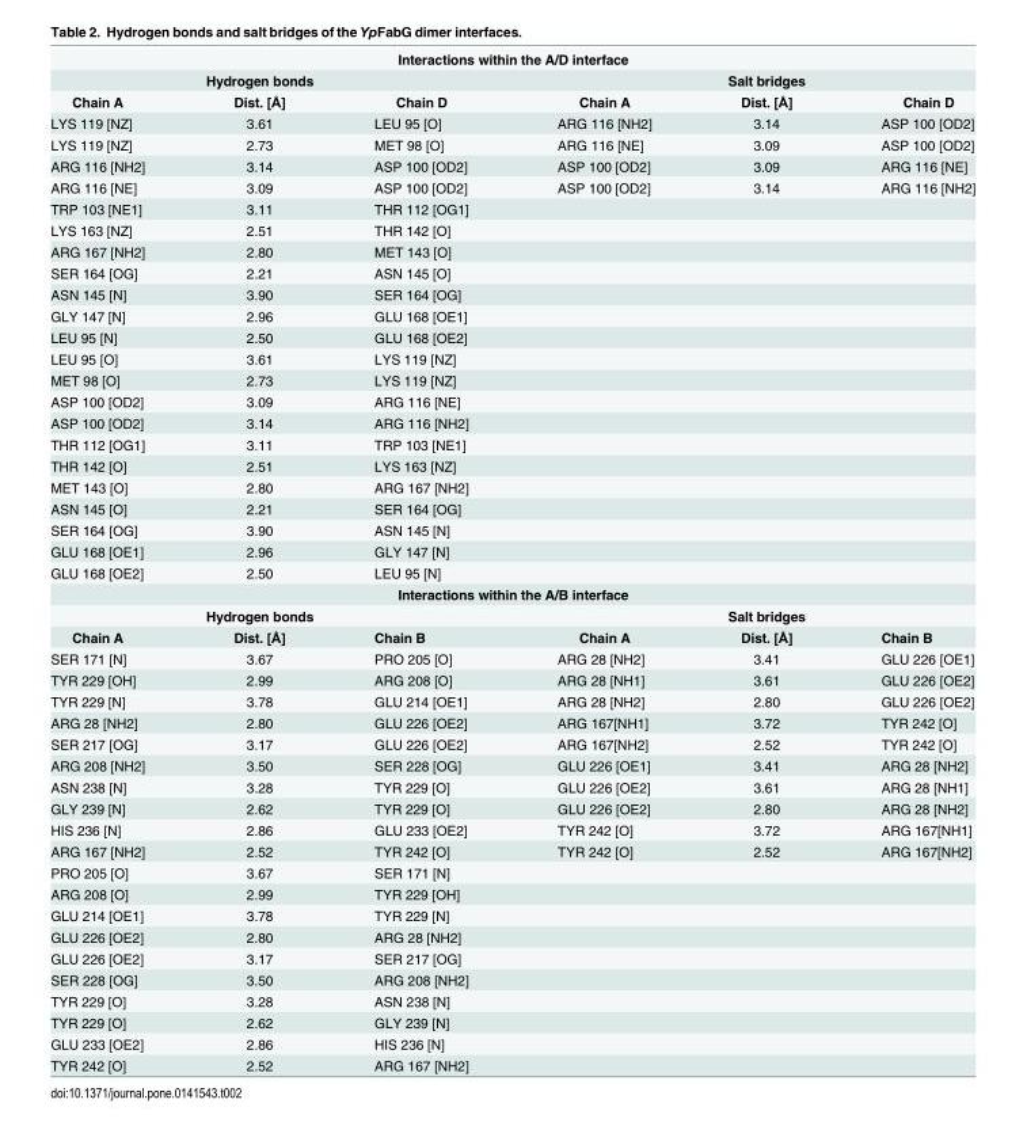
<table><tbody><tr><td colspan="6">Interactions within the A/D interface</td></tr><tr><td colspan="3">Hydrogen bonds</td><td colspan="3">Salt bridges</td></tr><tr><td>Chain A</td><td>Dist. [Å]</td><td>Chain D</td><td>Chain A</td><td>Dist. [Å]</td><td>Chain D</td></tr><tr><td>LYS 119 [NZ]</td><td>3.61</td><td>LEU 95 [O]</td><td>ARG 116 [NH2]</td><td>3.14</td><td>ASP 100 [OD2]</td></tr><tr><td>LYS 119 [NZ]</td><td>2.73</td><td>MET 98 [O]</td><td>ARG 116 [NE]</td><td>3.09</td><td>ASP 100 [OD2]</td></tr><tr><td>ARG 116 [NH2]</td><td>3.14</td><td>ASP 100 [OD2]</td><td>ASP 100 [OD2]</td><td>3.09</td><td>ARG 116 [NE]</td></tr><tr><td>ARG 116 [NE]</td><td>3.09</td><td>ASP 100 [OD2]</td><td>ASP 100 [OD2]</td><td>3.14</td><td>ARG 116 [NH2]</td></tr><tr><td>TRP 103 [NE1]</td><td>3.11</td><td>THR 112 [OG1]</td><td></td><td></td><td></td></tr><tr><td>LYS 163 [NZ]</td><td>2.51</td><td>THR 142 [O]</td><td></td><td></td><td></td></tr><tr><td>ARG 167 [NH2]</td><td>2.80</td><td>MET 143 [O]</td><td></td><td></td><td></td></tr><tr><td>SER 164 [OG]</td><td>2.21</td><td>ASN 145 [O]</td><td></td><td></td><td></td></tr><tr><td>ASN 145 [N]</td><td>3.90</td><td>SER 164 [OG]</td><td></td><td></td><td></td></tr><tr><td>GLY 147 [N]</td><td>2.96</td><td>GLU 168 [OE1]</td><td></td><td></td><td></td></tr><tr><td>LEU 95 [N]</td><td>2.50</td><td>GLU 168 [OE2]</td><td></td><td></td><td></td></tr><tr><td>LEU 95 [O]</td><td>3.61</td><td>LYS 119 [NZ]</td><td></td><td></td><td></td></tr><tr><td>MET 98 [O]</td><td>2.73</td><td>LYS 119 [NZ]</td><td></td><td></td><td></td></tr><tr><td>ASP 100 [OD2]</td><td>3.09</td><td>ARG 116 [NE]</td><td></td><td></td><td></td></tr><tr><td>ASP 100 [OD2]</td><td>3.14</td><td>ARG 116 [NH2]</td><td></td><td></td><td></td></tr><tr><td>THR 112 [OG1]</td><td>3.11</td><td>TRP 103 [NE1]</td><td></td><td></td><td></td></tr><tr><td>THR 142 [O]</td><td>2.51</td><td>LYS 163 [NZ]</td><td></td><td></td><td></td></tr><tr><td>MET 143 [O]</td><td>2.80</td><td>ARG 167 [NH2]</td><td></td><td></td><td></td></tr><tr><td>ASN 145 [O]</td><td>2.21</td><td>SER 164 [OG]</td><td></td><td></td><td></td></tr><tr><td>SER 164 [OG]</td><td>3.90</td><td>ASN 145 [N]</td><td></td><td></td><td></td></tr><tr><td>GLU 168 [OE1]</td><td>2.96</td><td>GLY 147 [N]</td><td></td><td></td><td></td></tr><tr><td>GLU 168 [OE2]</td><td>2.50</td><td>LEU 95 [N]</td><td></td><td></td><td></td></tr><tr><td colspan="6">Interactions within the A/B interface</td></tr><tr><td colspan="3">Hydrogen bonds</td><td colspan="3">Salt bridges</td></tr><tr><td>Chain A</td><td>Dist. [Å]</td><td>Chain B</td><td>Chain A</td><td>Dist. [Å]</td><td>Chain B</td></tr><tr><td>SER 171 [N]</td><td>3.67</td><td>PRO 205 [O]</td><td>ARG 28 [NH2]</td><td>3.41</td><td>GLU 226 [OE1]</td></tr><tr><td>TYR 229 [OH]</td><td>2.99</td><td>ARG 208 [O]</td><td>ARG 28 [NH1]</td><td>3.61</td><td>GLU 226 [OE2]</td></tr><tr><td>TYR 229 [N]</td><td>3.78</td><td>GLU 214 [OE1]</td><td>ARG 28 [NH2]</td><td>2.80</td><td>GLU 226 [OE2]</td></tr><tr><td>ARG 28 [NH2]</td><td>2.80</td><td>GLU 226 [OE2]</td><td>ARG 167[NH1]</td><td>3.72</td><td>TYR 242 [O]</td></tr><tr><td>SER 217 [OG]</td><td>3.17</td><td>GLU 226 [OE2]</td><td>ARG 167[NH2]</td><td>2.52</td><td>TYR 242 [O]</td></tr><tr><td>ARG 208 [NH2]</td><td>3.50</td><td>SER 228 [OG]</td><td>GLU 226 [OE1]</td><td>3.41</td><td>ARG 28 [NH2]</td></tr><tr><td>ASN 238 [N]</td><td>3.28</td><td>TYR 229 [O]</td><td>GLU 226 [OE2]</td><td>3.61</td><td>ARG 28 [NH1]</td></tr><tr><td>GLY 239 [N]</td><td>2.62</td><td>TYR 229 [O]</td><td>GLU 226 [OE2]</td><td>2.80</td><td>ARG 28 [NH2]</td></tr><tr><td>HIS 236 [N]</td><td>2.86</td><td>GLU 233 [OE2]</td><td>TYR 242 [O]</td><td>3.72</td><td>ARG 167[NH1]</td></tr><tr><td>ARG 167 [NH2]</td><td>2.52</td><td>TYR 242 [O]</td><td>TYR 242 [O]</td><td>2.52</td><td>ARG 167[NH2]</td></tr><tr><td>PRO 205 [O]</td><td>3.67</td><td>SER 171 [N]</td><td></td><td></td><td></td></tr><tr><td>ARG 208 [O]</td><td>2.99</td><td>TYR 229 [OH]</td><td></td><td></td><td></td></tr><tr><td>GLU 214 [OE1]</td><td>3.78</td><td>TYR 229 [N]</td><td></td><td></td><td></td></tr><tr><td>GLU 226 [OE2]</td><td>2.80</td><td>ARG 28 [NH2]</td><td></td><td></td><td></td></tr><tr><td>GLU 226 [OE2]</td><td>3.17</td><td>SER 217 [OG]</td><td></td><td></td><td></td></tr><tr><td>SER 228 [OG]</td><td>3.50</td><td>ARG 208 [NH2]</td><td></td><td></td><td></td></tr><tr><td>TYR 229 [O]</td><td>3.28</td><td>ASN 238 [N]</td><td></td><td></td><td></td></tr><tr><td>TYR 229 [O]</td><td>2.62</td><td>GLY 239 [N]</td><td></td><td></td><td></td></tr><tr><td>GLU 233 [OE2]</td><td>2.86</td><td>HIS 236 [N]</td><td></td><td></td><td></td></tr><tr><td>TYR 242 [O]</td><td>2.52</td><td>ARG 167 [NH2]</td><td></td><td></td><td></td></tr></tbody></table>